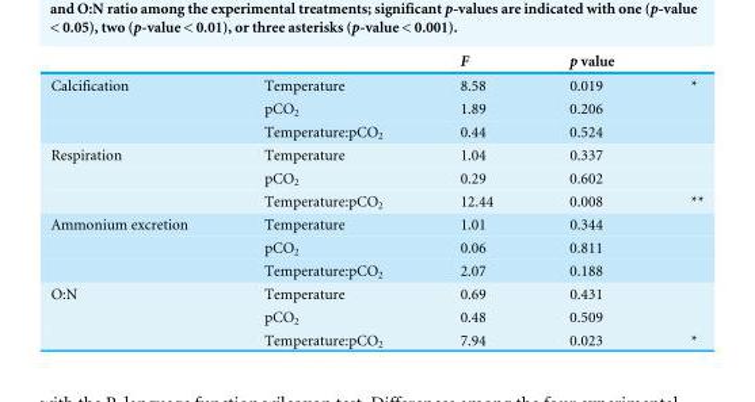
<table><thead><tr><td></td><td></td><td>F</td><td>p value</td><td></td></tr></thead><tbody><tr><td rowspan="3">Calcification</td><td>Temperature</td><td>8.58</td><td>0.019</td><td>*</td></tr><tr><td>pCO<sub>2</sub></td><td>1.89</td><td>0.206</td><td></td></tr><tr><td>Temperature:pCO<sub>2</sub></td><td>0.44</td><td>0.524</td><td></td></tr><tr><td rowspan="3">Respiration</td><td>Temperature</td><td>1.04</td><td>0.337</td><td></td></tr><tr><td>pCO<sub>2</sub></td><td>0.29</td><td>0.602</td><td></td></tr><tr><td>Temperature:pCO<sub>2</sub></td><td>12.44</td><td>0.008</td><td>**</td></tr><tr><td rowspan="3">Ammonium excretion</td><td>Temperature</td><td>1.01</td><td>0.344</td><td></td></tr><tr><td>pCO<sub>2</sub></td><td>0.06</td><td>0.811</td><td></td></tr><tr><td>Temperature:pCO<sub>2</sub></td><td>2.07</td><td>0.188</td><td></td></tr><tr><td rowspan="3">O:N</td><td>Temperature</td><td>0.69</td><td>0.431</td><td></td></tr><tr><td>pCO<sub>2</sub></td><td>0.48</td><td>0.509</td><td></td></tr><tr><td>Temperature:pCO<sub>2</sub></td><td>7.94</td><td>0.023</td><td>*</td></tr></tbody></table>